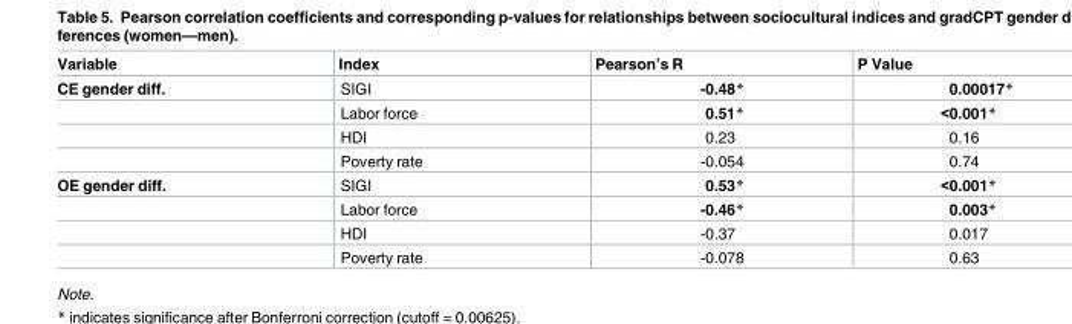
<table><thead><tr><td>Variable</td><td>Index</td><td>Pearson’s R</td><td>P Value</td></tr></thead><tbody><tr><td rowspan="4">CE gender diff.</td><td>SIGI</td><td>-0.48*</td><td>0.00017*</td></tr><tr><td>Labor force</td><td>0.51*</td><td>&lt;0.001*</td></tr><tr><td>HDI</td><td>0.23</td><td>0.16</td></tr><tr><td>Poverty rate</td><td>-0.054</td><td>0.74</td></tr><tr><td rowspan="4">OE gender diff.</td><td>SIGI</td><td>0.53*</td><td>&lt;0.001*</td></tr><tr><td>Labor force</td><td>-0.46*</td><td>0.003*</td></tr><tr><td>HDI</td><td>-0.37</td><td>0.017</td></tr><tr><td>Poverty rate</td><td>-0.078</td><td>0.63</td></tr></tbody></table>